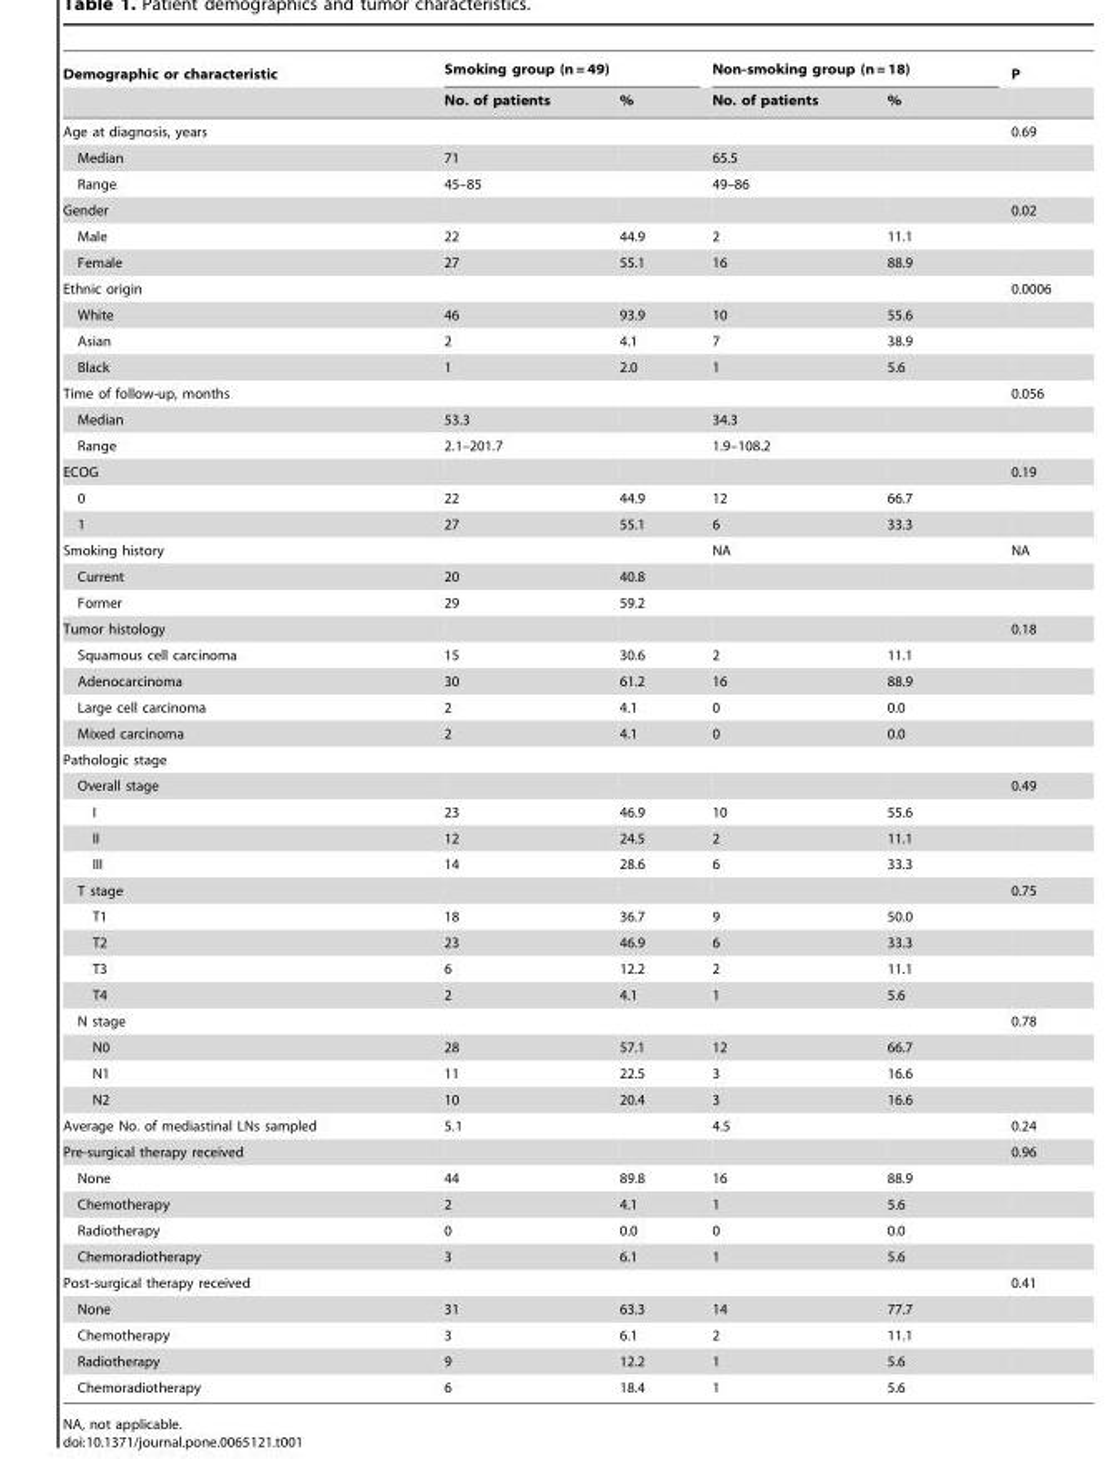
<table><thead><tr><td rowspan="2">Demographic or characteristic</td><td colspan="2">Smoking group (n = 49)</td><td colspan="2">Non-smoking group (n = 18)</td><td rowspan="2">P</td></tr><tr><td>No. of patients</td><td>%</td><td>No. of patients</td><td>%</td></tr></thead><tbody><tr><td>Age at diagnosis, years</td><td></td><td></td><td></td><td></td><td>0.69</td></tr><tr><td>Median</td><td>71</td><td></td><td>65.5</td><td></td><td></td></tr><tr><td>Range</td><td>45–85</td><td></td><td>49–86</td><td></td><td></td></tr><tr><td>Gender</td><td></td><td></td><td></td><td></td><td>0.02</td></tr><tr><td>Male</td><td>22</td><td>44.9</td><td>2</td><td>11.1</td><td></td></tr><tr><td>Female</td><td>27</td><td>55.1</td><td>16</td><td>88.9</td><td></td></tr><tr><td>Ethnic origin</td><td></td><td></td><td></td><td></td><td>0.0006</td></tr><tr><td>White</td><td>46</td><td>93.9</td><td>10</td><td>55.6</td><td></td></tr><tr><td>Asian</td><td>2</td><td>4.1</td><td>7</td><td>38.9</td><td></td></tr><tr><td>Black</td><td>1</td><td>2.0</td><td>1</td><td>5.6</td><td></td></tr><tr><td>Time of follow-up, months</td><td></td><td></td><td></td><td></td><td>0.056</td></tr><tr><td>Median</td><td>53.3</td><td></td><td>34.3</td><td></td><td></td></tr><tr><td>Range</td><td>2.1–201.7</td><td></td><td>1.9–108.2</td><td></td><td></td></tr><tr><td>ECOG</td><td></td><td></td><td></td><td></td><td>0.19</td></tr><tr><td>0</td><td>22</td><td>44.9</td><td>12</td><td>66.7</td><td></td></tr><tr><td>1</td><td>27</td><td>55.1</td><td>6</td><td>33.3</td><td></td></tr><tr><td>Smoking history</td><td></td><td></td><td>NA</td><td></td><td>NA</td></tr><tr><td>Current</td><td>20</td><td>40.8</td><td></td><td></td><td></td></tr><tr><td>Former</td><td>29</td><td>59.2</td><td></td><td></td><td></td></tr><tr><td>Tumor histology</td><td></td><td></td><td></td><td></td><td>0.18</td></tr><tr><td>Squamous cell carcinoma</td><td>15</td><td>30.6</td><td>2</td><td>11.1</td><td></td></tr><tr><td>Adenocarcinoma</td><td>30</td><td>61.2</td><td>16</td><td>88.9</td><td></td></tr><tr><td>Large cell carcinoma</td><td>2</td><td>4.1</td><td>0</td><td>0.0</td><td></td></tr><tr><td>Mixed carcinoma</td><td>2</td><td>4.1</td><td>0</td><td>0.0</td><td></td></tr><tr><td colspan="6">Pathologic stage</td></tr><tr><td>Overall stage</td><td></td><td></td><td></td><td></td><td>0.49</td></tr><tr><td>I</td><td>23</td><td>46.9</td><td>10</td><td>55.6</td><td></td></tr><tr><td>II</td><td>12</td><td>24.5</td><td>2</td><td>11.1</td><td></td></tr><tr><td>III</td><td>14</td><td>28.6</td><td>6</td><td>33.3</td><td></td></tr><tr><td>T stage</td><td></td><td></td><td></td><td></td><td>0.75</td></tr><tr><td>T1</td><td>18</td><td>36.7</td><td>9</td><td>50.0</td><td></td></tr><tr><td>T2</td><td>23</td><td>46.9</td><td>6</td><td>33.3</td><td></td></tr><tr><td>T3</td><td>6</td><td>12.2</td><td>2</td><td>11.1</td><td></td></tr><tr><td>T4</td><td>2</td><td>4.1</td><td>1</td><td>5.6</td><td></td></tr><tr><td>N stage</td><td></td><td></td><td></td><td></td><td>0.78</td></tr><tr><td>N0</td><td>28</td><td>57.1</td><td>12</td><td>66.7</td><td></td></tr><tr><td>N1</td><td>11</td><td>22.5</td><td>3</td><td>16.6</td><td></td></tr><tr><td>N2</td><td>10</td><td>20.4</td><td>3</td><td>16.6</td><td></td></tr><tr><td>Average No. of mediastinal LNs sampled</td><td>5.1</td><td></td><td>4.5</td><td></td><td>0.24</td></tr><tr><td>Pre-surgical therapy received</td><td></td><td></td><td></td><td></td><td>0.96</td></tr><tr><td>None</td><td>44</td><td>89.8</td><td>16</td><td>88.9</td><td></td></tr><tr><td>Chemotherapy</td><td>2</td><td>4.1</td><td>1</td><td>5.6</td><td></td></tr><tr><td>Radiotherapy</td><td>0</td><td>0.0</td><td>0</td><td>0.0</td><td></td></tr><tr><td>Chemoradiotherapy</td><td>3</td><td>6.1</td><td>1</td><td>5.6</td><td></td></tr><tr><td>Post-surgical therapy received</td><td></td><td></td><td></td><td></td><td>0.41</td></tr><tr><td>None</td><td>31</td><td>63.3</td><td>14</td><td>77.7</td><td></td></tr><tr><td>Chemotherapy</td><td>3</td><td>6.1</td><td>2</td><td>11.1</td><td></td></tr><tr><td>Radiotherapy</td><td>9</td><td>12.2</td><td>1</td><td>5.6</td><td></td></tr><tr><td>Chemoradiotherapy</td><td>6</td><td>18.4</td><td>1</td><td>5.6</td><td></td></tr></tbody></table>